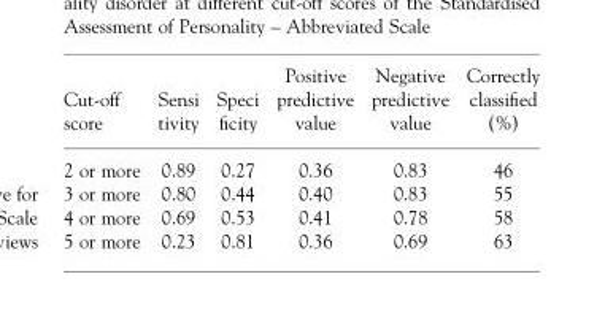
<table><thead><tr><td>Cut-off score</td><td>Sensi tivity</td><td>Speci ficity</td><td>Positive predictive value</td><td>Negative predictive value</td><td>Correctly classified (%)</td></tr></thead><tbody><tr><td>2 or more</td><td>0.89</td><td>0.27</td><td>0.36</td><td>0.83</td><td>46</td></tr><tr><td>3 or more</td><td>0.80</td><td>0.44</td><td>0.40</td><td>0.83</td><td>55</td></tr><tr><td>4 or more</td><td>0.69</td><td>0.53</td><td>0.41</td><td>0.78</td><td>58</td></tr><tr><td>5 or more</td><td>0.23</td><td>0.81</td><td>0.36</td><td>0.69</td><td>63</td></tr></tbody></table>